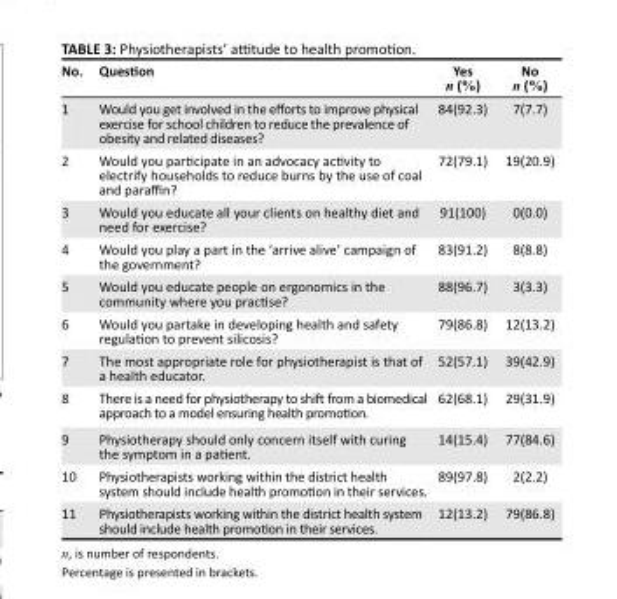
<table><thead><tr><td>No.</td><td>Question</td><td>Yes n (%)</td><td>No n (%)</td></tr></thead><tbody><tr><td>1</td><td>Would you get involved in the efforts to improve physical exercise for school children to reduce the prevalence of obesity and related diseases?</td><td>84(92.3)</td><td>7(7.7)</td></tr><tr><td>2</td><td>Would you participate in an advocacy activity to electrify households to reduce burns by the use of coal and paraffin?</td><td>72(79.1)</td><td>19(20.9)</td></tr><tr><td>3</td><td>Would you educate all your clients on healthy diet and need for exercise?</td><td>91(100)</td><td>0(0.0)</td></tr><tr><td>4</td><td>Would you play a part in the ‘arrive alive’ campaign of the government?</td><td>83(91.2)</td><td>8(8.8)</td></tr><tr><td>5</td><td>Would you educate people on ergonomics in the community where you practise?</td><td>88(96.7)</td><td>3(3.3)</td></tr><tr><td>6</td><td>Would you partake in developing health and safety regulation to prevent silicosis?</td><td>79(86.8)</td><td>12(13.2)</td></tr><tr><td>7</td><td>The most appropriate role for physiotherapist is that of a health educator.</td><td>52(57.1)</td><td>39(42.9)</td></tr><tr><td>8</td><td>There is a need for physiotherapy to shift from a biomedical approach to a model ensuring health promotion.</td><td>62(68.1)</td><td>29(31.9)</td></tr><tr><td>9</td><td>Physiotherapy should only concern itself with curing the symptom in a patient.</td><td>14(15.4)</td><td>77(84.6)</td></tr><tr><td>10</td><td>Physiotherapists working within the district health system should include health promotion in their services.</td><td>89(97.8)</td><td>2(2.2)</td></tr><tr><td>11</td><td>Physiotherapists working within the district health system should include health promotion in their services.</td><td>12(13.2)</td><td>79(86.8)</td></tr></tbody></table>